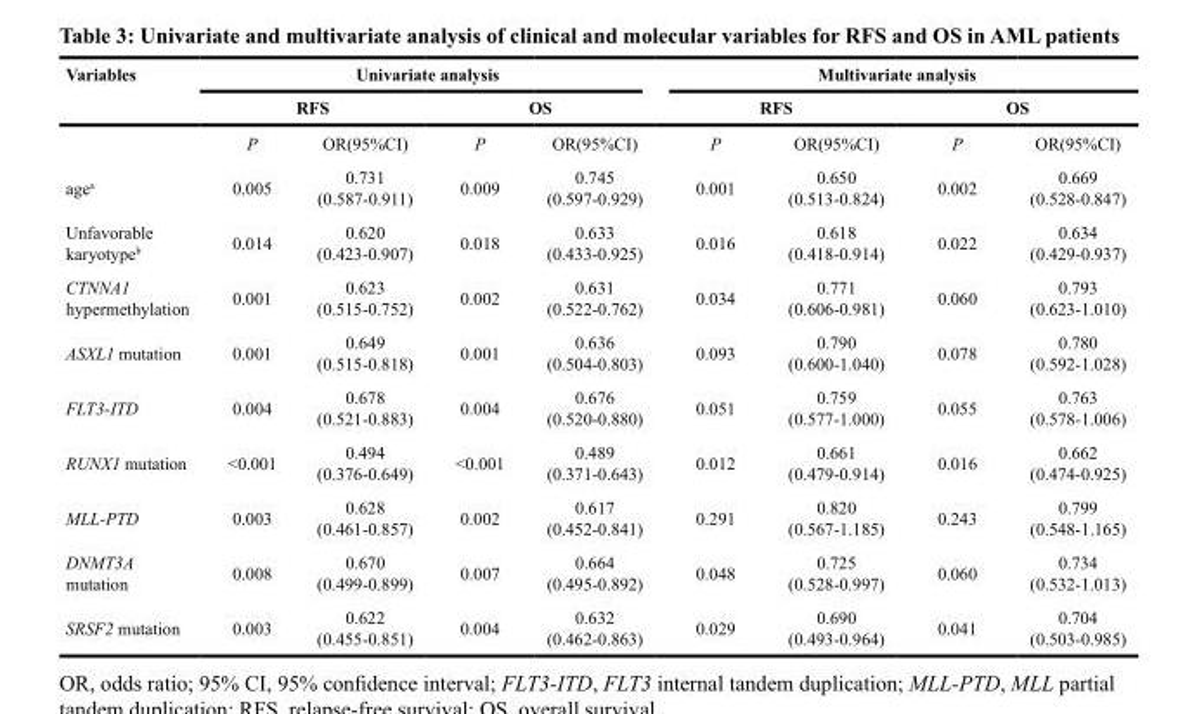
<table><thead><tr><td rowspan="3">Variables</td><td colspan="4">Univariate analysis</td><td colspan="4">Multivariate analysis</td></tr><tr><td colspan="2">RFS</td><td colspan="2">OS</td><td colspan="2">RFS</td><td colspan="2">OS</td></tr><tr><td>P</td><td>OR(95%CI)</td><td>P</td><td>OR(95%CI)</td><td>P</td><td>OR(95%CI)</td><td>P</td><td>OR(95%CI)</td></tr></thead><tbody><tr><td>age<sup>a</sup></td><td>0.005</td><td>0.731 (0.587-0.911)</td><td>0.009</td><td>0.745 (0.597-0.929)</td><td>0.001</td><td>0.650 (0.513-0.824)</td><td>0.002</td><td>0.669 (0.528-0.847)</td></tr><tr><td>Unfavorable karyotype<sup>b</sup></td><td>0.014</td><td>0.620 (0.423-0.907)</td><td>0.018</td><td>0.633 (0.433-0.925)</td><td>0.016</td><td>0.618 (0.418-0.914)</td><td>0.022</td><td>0.634 (0.429-0.937)</td></tr><tr><td>CTNNA1 hypermethylation</td><td>0.001</td><td>0.623 (0.515-0.752)</td><td>0.002</td><td>0.631 (0.522-0.762)</td><td>0.034</td><td>0.771 (0.606-0.981)</td><td>0.060</td><td>0.793 (0.623-1.010)</td></tr><tr><td>ASXL1 mutation</td><td>0.001</td><td>0.649 (0.515-0.818)</td><td>0.001</td><td>0.636 (0.504-0.803)</td><td>0.093</td><td>0.790 (0.600-1.040)</td><td>0.078</td><td>0.780 (0.592-1.028)</td></tr><tr><td>FLT3-ITD</td><td>0.004</td><td>0.678 (0.521-0.883)</td><td>0.004</td><td>0.676 (0.520-0.880)</td><td>0.051</td><td>0.759 (0.577-1.000)</td><td>0.055</td><td>0.763 (0.578-1.006)</td></tr><tr><td>RUNX1 mutation</td><td>&lt;0.001</td><td>0.494 (0.376-0.649)</td><td>&lt;0.001</td><td>0.489 (0.371-0.643)</td><td>0.012</td><td>0.661 (0.479-0.914)</td><td>0.016</td><td>0.662 (0.474-0.925)</td></tr><tr><td>MLL-PTD</td><td>0.003</td><td>0.628 (0.461-0.857)</td><td>0.002</td><td>0.617 (0.452-0.841)</td><td>0.291</td><td>0.820 (0.567-1.185)</td><td>0.243</td><td>0.799 (0.548-1.165)</td></tr><tr><td>DNMT3A mutation</td><td>0.008</td><td>0.670 (0.499-0.899)</td><td>0.007</td><td>0.664 (0.495-0.892)</td><td>0.048</td><td>0.725 (0.528-0.997)</td><td>0.060</td><td>0.734 (0.532-1.013)</td></tr><tr><td>SRSF2 mutation</td><td>0.003</td><td>0.622 (0.455-0.851)</td><td>0.004</td><td>0.632 (0.462-0.863)</td><td>0.029</td><td>0.690 (0.493-0.964)</td><td>0.041</td><td>0.704 (0.503-0.985)</td></tr></tbody></table>